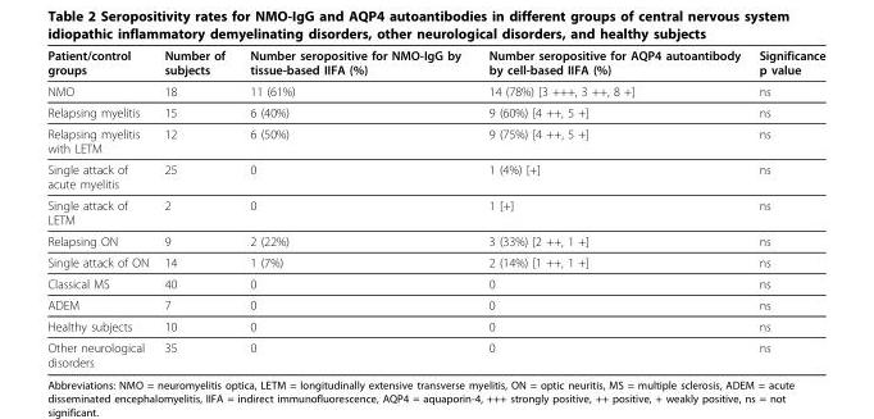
<table><thead><tr><td>Patient/control groups</td><td>Number of subjects</td><td>Number seropositive for NMO-IgG by tissue-based IIFA (%)</td><td>Number seropositive for AQP4 autoantibody by cell-based IIFA (%)</td><td>Significance p value</td></tr></thead><tbody><tr><td>NMO</td><td>18</td><td>11 (61%)</td><td>14 (78%) [3 +++, 3 ++, 8 +]</td><td>ns</td></tr><tr><td>Relapsing myelitis</td><td>15</td><td>6 (40%)</td><td>9 (60%) [4 ++, 5 +]</td><td>ns</td></tr><tr><td>Relapsing myelitis with LETM</td><td>12</td><td>6 (50%)</td><td>9 (75%) [4 ++, 5 +]</td><td>ns</td></tr><tr><td>Single attack of acute myelitis</td><td>25</td><td>0</td><td>1 (4%) [+]</td><td>ns</td></tr><tr><td>Single attack of LETM</td><td>2</td><td>0</td><td>1 [+]</td><td>ns</td></tr><tr><td>Relapsing ON</td><td>9</td><td>2 (22%)</td><td>3 (33%) [2 ++, 1 +]</td><td>ns</td></tr><tr><td>Single attack of ON</td><td>14</td><td>1 (7%)</td><td>2 (14%) [1 ++, 1 +]</td><td>ns</td></tr><tr><td>Classical MS</td><td>40</td><td>0</td><td>0</td><td>ns</td></tr><tr><td>ADEM</td><td>7</td><td>0</td><td>0</td><td>ns</td></tr><tr><td>Healthy subjects</td><td>10</td><td>0</td><td>0</td><td>ns</td></tr><tr><td>Other neurological disorders</td><td>35</td><td>0</td><td>0</td><td>ns</td></tr></tbody></table>